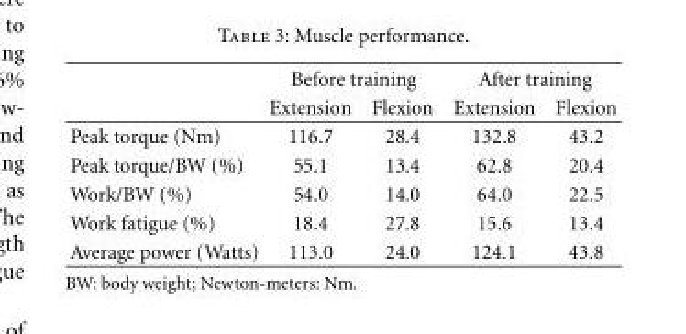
<table><thead><tr><td rowspan="2"></td><td colspan="2">Before training</td><td colspan="2">After training</td></tr><tr><td>Extension</td><td>Flexion</td><td>Extension</td><td>Flexion</td></tr></thead><tbody><tr><td>Peak torque (Nm)</td><td>116.7</td><td>28.4</td><td>132.8</td><td>43.2</td></tr><tr><td>Peak torque/BW (%)</td><td>55.1</td><td>13.4</td><td>62.8</td><td>20.4</td></tr><tr><td>Work/BW (%)</td><td>54.0</td><td>14.0</td><td>64.0</td><td>22.5</td></tr><tr><td>Work fatigue (%)</td><td>18.4</td><td>27.8</td><td>15.6</td><td>13.4</td></tr><tr><td>Average power (Watts)</td><td>113.0</td><td>24.0</td><td>124.1</td><td>43.8</td></tr></tbody></table>